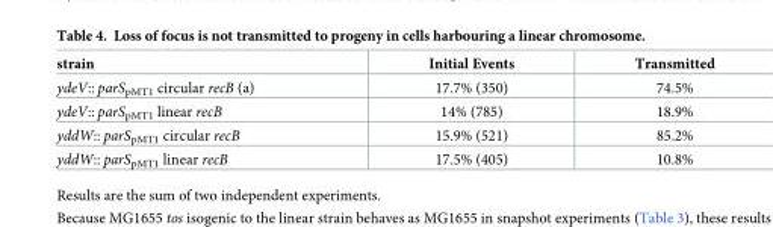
<table><thead><tr><td>strain</td><td>Initial Events</td><td>Transmitted</td></tr></thead><tbody><tr><td>ydeV:: parS<sub>pMT1</sub> circular recB (a)</td><td>17.7% (350)</td><td>74.5%</td></tr><tr><td>ydeV:: parS<sub>pMT1</sub> linear recB</td><td>14% (785)</td><td>18.9%</td></tr><tr><td>yddW:: parS<sub>pMT1</sub> circular recB</td><td>15.9% (521)</td><td>85.2%</td></tr><tr><td>yddW:: parS<sub>pMT1</sub> linear recB</td><td>17.5% (405)</td><td>10.8%</td></tr></tbody></table>